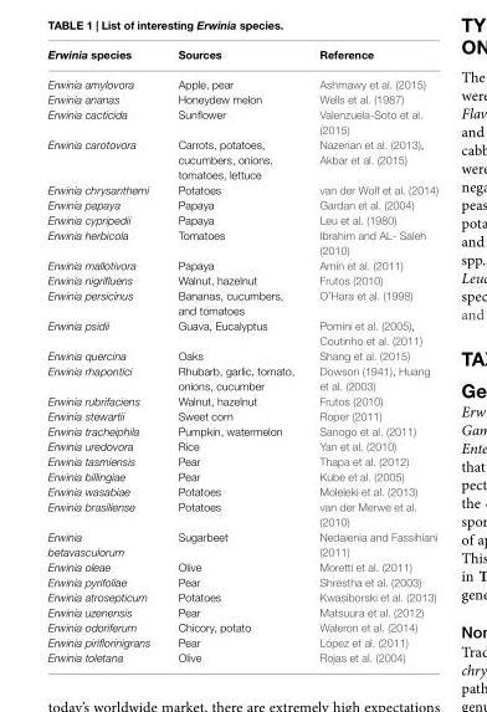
<table><thead><tr><td>Erwinia species</td><td>Sources</td><td>Reference</td></tr></thead><tbody><tr><td>Erwinia amylovora</td><td>Apple, pear</td><td>Ashmawy et al. (2015)</td></tr><tr><td>Erwinia ananas</td><td>Honeydew melon</td><td>Wells et al. (1987)</td></tr><tr><td>Erwinia cacticida</td><td>Sunflower</td><td>Valenzuela-Soto et al. (2015)</td></tr><tr><td>Erwinia carotovora</td><td>Carrots, potatoes, cucumbers, onions, tomatoes, lettuce</td><td>Nazerian et al. (2013), Akbar et al. (2015)</td></tr><tr><td>Erwinia chrysanthemi</td><td>Potatoes</td><td>van der Wolf et al. (2014)</td></tr><tr><td>Erwinia papaya</td><td>Papaya</td><td>Gardan et al. (2004)</td></tr><tr><td>Erwinia cypripedii</td><td>Papaya</td><td>Leu et al. (1980)</td></tr><tr><td>Erwinia herbicola</td><td>Tomatoes</td><td>Ibrahim and AL- Saleh (2010)</td></tr><tr><td>Erwinia mallotivora</td><td>Papaya</td><td>Amin et al. (2011)</td></tr><tr><td>Erwinia nigrifluens</td><td>Walnut, hazelnut</td><td>Frutos (2010)</td></tr><tr><td>Erwinia persicinus</td><td>Bananas, cucumbers, and tomatoes</td><td>O’Hara et al. (1998)</td></tr><tr><td>Erwinia psidii</td><td>Guava, Eucalyptus</td><td>Pomini et al. (2005), Coutinho et al. (2011)</td></tr><tr><td>Erwinia quercina</td><td>Oaks</td><td>Shang et al. (2015)</td></tr><tr><td>Erwinia rhapontici</td><td>Rhubarb, garlic, tomato, onions, cucumber</td><td>Dowson (1941), Huang et al. (2003)</td></tr><tr><td>Erwinia rubrifaciens</td><td>Walnut, hazelnut</td><td>Frutos (2010)</td></tr><tr><td>Erwinia stewartii</td><td>Sweet corn</td><td>Roper (2011)</td></tr><tr><td>Erwinia tracheiphila</td><td>Pumpkin, watermelon</td><td>Sanogo et al. (2011)</td></tr><tr><td>Erwinia uredovora</td><td>Rice</td><td>Yan et al. (2010)</td></tr><tr><td>Erwinia tasmiensis</td><td>Pear</td><td>Thapa et al. (2012)</td></tr><tr><td>Erwinia billingiae</td><td>Pear</td><td>Kube et al. (2005)</td></tr><tr><td>Erwinia wasabiae</td><td>Potatoes</td><td>Moleleki et al. (2013)</td></tr><tr><td>Erwinia brasiliense</td><td>Potatoes</td><td>van der Merwe et al. (2010)</td></tr><tr><td>Erwinia betavasculorum</td><td>Sugarbeet</td><td>Nedaienia and Fassihiani (2011)</td></tr><tr><td>Erwinia oleae</td><td>Olive</td><td>Moretti et al. (2011)</td></tr><tr><td>Erwinia pyrifoliae</td><td>Pear</td><td>Shrestha et al. (2003)</td></tr><tr><td>Erwinia atrosepticum</td><td>Potatoes</td><td>Kwasiborski et al. (2013)</td></tr><tr><td>Erwinia uzenensis</td><td>Pear</td><td>Matsuura et al. (2012)</td></tr><tr><td>Erwinia odoriferum</td><td>Chicory, potato</td><td>Waleron et al. (2014)</td></tr><tr><td>Erwinia piriflorinigrans</td><td>Pear</td><td>López et al. (2011)</td></tr><tr><td>Erwinia toletana</td><td>Olive</td><td>Rojas et al. (2004)</td></tr></tbody></table>